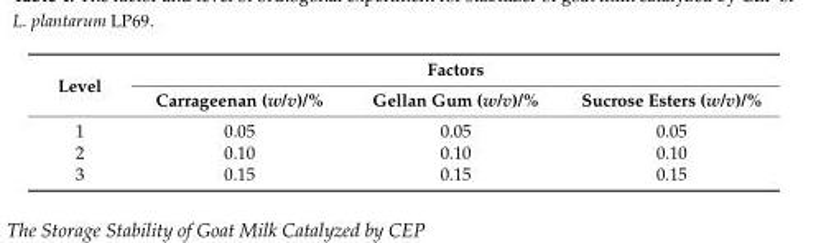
<table><thead><tr><td rowspan="2">Level</td><td colspan="3">Factors</td></tr><tr><td>Carrageenan (w/v)/%</td><td>Gellan Gum (w/v)/%</td><td>Sucrose Esters (w/v)/%</td></tr></thead><tbody><tr><td>1</td><td>0.05</td><td>0.05</td><td>0.05</td></tr><tr><td>2</td><td>0.10</td><td>0.10</td><td>0.10</td></tr><tr><td>3</td><td>0.15</td><td>0.15</td><td>0.15</td></tr></tbody></table>